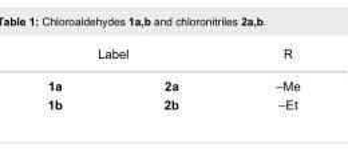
<table><tbody><tr><td colspan="2">Label</td><td>R</td></tr><tr><td>1a</td><td>2a</td><td>–Me</td></tr><tr><td>1b</td><td>2b</td><td>–Et</td></tr></tbody></table>